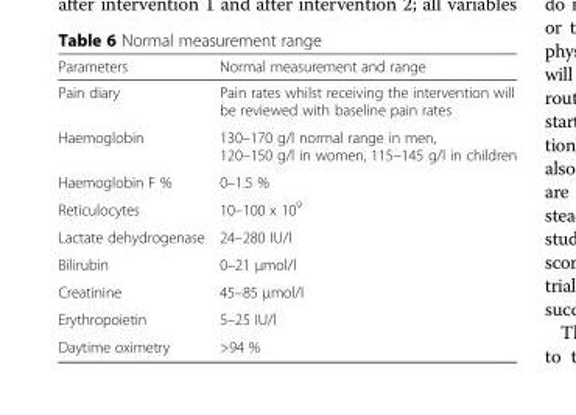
<table><thead><tr><td>Parameters</td><td>Normal measurement and range</td></tr></thead><tbody><tr><td>Pain diary</td><td>Pain rates whilst receiving the intervention will be reviewed with baseline pain rates</td></tr><tr><td>Haemoglobin</td><td>130–170 g/l normal range in men, 120–150 g/l in women, 115–145 g/l in children</td></tr><tr><td>Haemoglobin F %</td><td>0–1.5 %</td></tr><tr><td>Reticulocytes</td><td>10–100 x 10<sup>9</sup></td></tr><tr><td>Lactate dehydrogenase</td><td>24–280 IU/l</td></tr><tr><td>Bilirubin</td><td>0–21 μmol/l</td></tr><tr><td>Creatinine</td><td>45–85 μmol/l</td></tr><tr><td>Erythropoietin</td><td>5–25 IU/l</td></tr><tr><td>Daytime oximetry</td><td>&gt;94 %</td></tr></tbody></table>